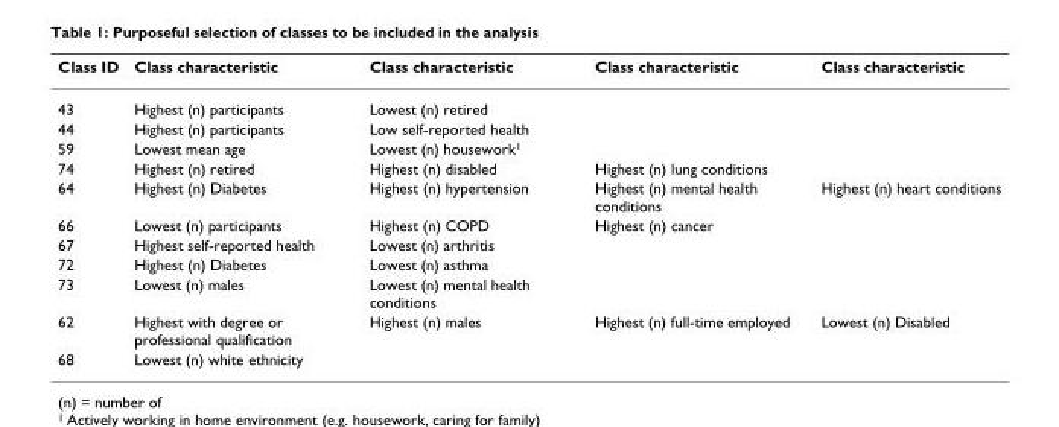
<table><thead><tr><td>Class ID</td><td>Class characteristic</td><td>Class characteristic</td><td>Class characteristic</td><td>Class characteristic</td></tr></thead><tbody><tr><td>43</td><td>Highest (n) participants</td><td>Lowest (n) retired</td><td></td><td></td></tr><tr><td>44</td><td>Highest (n) participants</td><td>Low self-reported health</td><td></td><td></td></tr><tr><td>59</td><td>Lowest mean age</td><td>Lowest (n) housework<sup>1</sup></td><td></td><td></td></tr><tr><td>74</td><td>Highest (n) retired</td><td>Highest (n) disabled</td><td>Highest (n) lung conditions</td><td></td></tr><tr><td>64</td><td>Highest (n) Diabetes</td><td>Highest (n) hypertension</td><td>Highest (n) mental health conditions</td><td>Highest (n) heart conditions</td></tr><tr><td>66</td><td>Lowest (n) participants</td><td>Highest (n) COPD</td><td>Highest (n) cancer</td><td></td></tr><tr><td>67</td><td>Highest self-reported health</td><td>Lowest (n) arthritis</td><td></td><td></td></tr><tr><td>72</td><td>Highest (n) Diabetes</td><td>Lowest (n) asthma</td><td></td><td></td></tr><tr><td>73</td><td>Lowest (n) males</td><td>Lowest (n) mental health conditions</td><td></td><td></td></tr><tr><td>62</td><td>Highest with degree or professional qualification</td><td>Highest (n) males</td><td>Highest (n) full-time employed</td><td>Lowest (n) Disabled</td></tr><tr><td>68</td><td>Lowest (n) white ethnicity</td><td></td><td></td><td></td></tr></tbody></table>